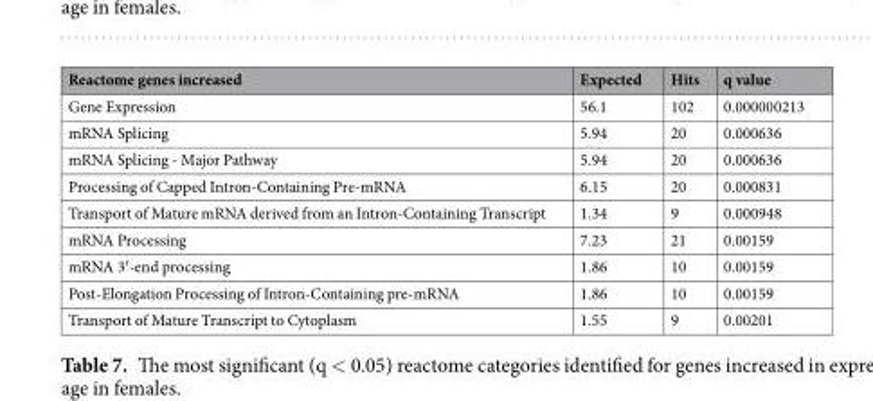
<table><thead><tr><td>Reactome genes increased</td><td>Expected</td><td>Hits</td><td>q value</td></tr></thead><tbody><tr><td>Gene Expression</td><td>56.1</td><td>102</td><td>0.000000213</td></tr><tr><td>mRNA Splicing</td><td>5.94</td><td>20</td><td>0.000636</td></tr><tr><td>mRNA Splicing - Major Pathway</td><td>5.94</td><td>20</td><td>0.000636</td></tr><tr><td>Processing of Capped Intron-Containing Pre-mRNA</td><td>6.15</td><td>20</td><td>0.000831</td></tr><tr><td>Transport of Mature mRNA derived from an Intron-Containing Transcript</td><td>1.34</td><td>9</td><td>0.000948</td></tr><tr><td>mRNA Processing</td><td>7.23</td><td>21</td><td>0.00159</td></tr><tr><td>mRNA 3′-end processing</td><td>1.86</td><td>10</td><td>0.00159</td></tr><tr><td>Post-Elongation Processing of Intron-Containing pre-mRNA</td><td>1.86</td><td>10</td><td>0.00159</td></tr><tr><td>Transport of Mature Transcript to Cytoplasm</td><td>1.55</td><td>9</td><td>0.00201</td></tr></tbody></table>